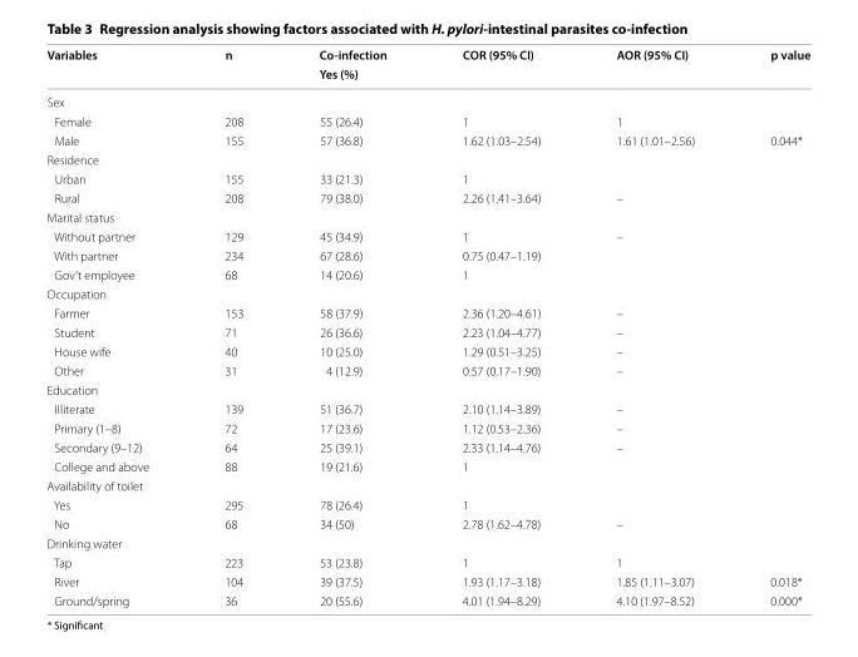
<table><thead><tr><td rowspan="2">Variables</td><td rowspan="2">n</td><td rowspan="2">Co-infection Yes (%)</td><td rowspan="2">COR (95% CI)</td><td rowspan="2">AOR (95% CI)</td><td rowspan="2">p value</td></tr><tr></tr></thead><tbody><tr><td colspan="6">Sex</td></tr><tr><td>Female</td><td>208</td><td>55 (26.4)</td><td>1</td><td>1</td><td></td></tr><tr><td>Male</td><td>155</td><td>57 (36.8)</td><td>1.62 (1.03–2.54)</td><td>1.61 (1.01–2.56)</td><td>0.044*</td></tr><tr><td colspan="6">Residence</td></tr><tr><td>Urban</td><td>155</td><td>33 (21.3)</td><td>1</td><td></td><td></td></tr><tr><td>Rural</td><td>208</td><td>79 (38.0)</td><td>2.26 (1.41–3.64)</td><td>–</td><td></td></tr><tr><td colspan="6">Marital status</td></tr><tr><td>Without partner</td><td>129</td><td>45 (34.9)</td><td>1</td><td>–</td><td></td></tr><tr><td>With partner</td><td>234</td><td>67 (28.6)</td><td>0.75 (0.47–1.19)</td><td></td><td></td></tr><tr><td>Gov’t employee</td><td>68</td><td>14 (20.6)</td><td>1</td><td></td><td></td></tr><tr><td colspan="6">Occupation</td></tr><tr><td>Farmer</td><td>153</td><td>58 (37.9)</td><td>2.36 (1.20–4.61)</td><td>–</td><td></td></tr><tr><td>Student</td><td>71</td><td>26 (36.6)</td><td>2.23 (1.04–4.77)</td><td>–</td><td></td></tr><tr><td>House wife</td><td>40</td><td>10 (25.0)</td><td>1.29 (0.51–3.25)</td><td>–</td><td></td></tr><tr><td>Other</td><td>31</td><td>4 (12.9)</td><td>0.57 (0.17–1.90)</td><td>–</td><td></td></tr><tr><td colspan="6">Education</td></tr><tr><td>Illiterate</td><td>139</td><td>51 (36.7)</td><td>2.10 (1.14–3.89)</td><td>–</td><td></td></tr><tr><td>Primary (1–8)</td><td>72</td><td>17 (23.6)</td><td>1.12 (0.53–2.36)</td><td>–</td><td></td></tr><tr><td>Secondary (9–12)</td><td>64</td><td>25 (39.1)</td><td>2.33 (1.14–4.76)</td><td>–</td><td></td></tr><tr><td>College and above</td><td>88</td><td>19 (21.6)</td><td>1</td><td></td><td></td></tr><tr><td colspan="6">Availability of toilet</td></tr><tr><td>Yes</td><td>295</td><td>78 (26.4)</td><td>1</td><td></td><td></td></tr><tr><td>No</td><td>68</td><td>34 (50)</td><td>2.78 (1.62–4.78)</td><td>–</td><td></td></tr><tr><td colspan="6">Drinking water</td></tr><tr><td>Tap</td><td>223</td><td>53 (23.8)</td><td>1</td><td>1</td><td></td></tr><tr><td>River</td><td>104</td><td>39 (37.5)</td><td>1.93 (1.17–3.18)</td><td>1.85 (1.11–3.07)</td><td>0.018*</td></tr><tr><td>Ground/spring</td><td>36</td><td>20 (55.6)</td><td>4.01 (1.94–8.29)</td><td>4.10 (1.97–8.52)</td><td>0.000*</td></tr></tbody></table>